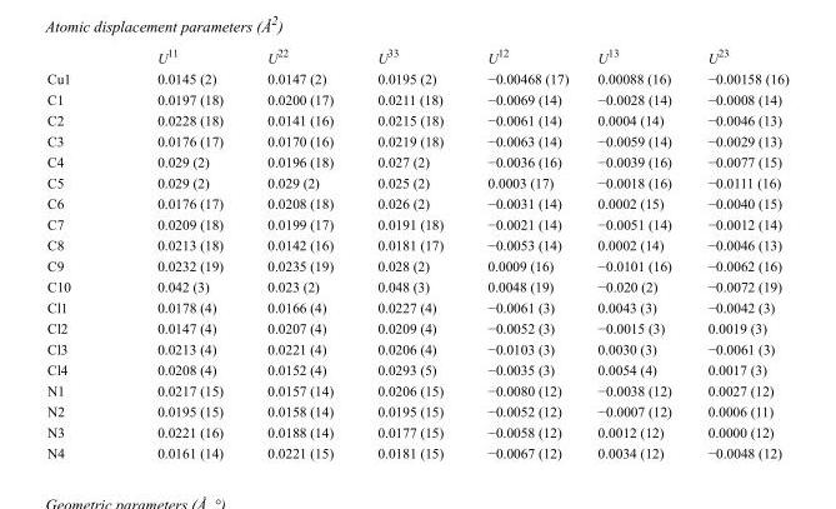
<table><thead><tr><td></td><td>U<sup>11</sup></td><td>U<sup>22</sup></td><td>U<sup>33</sup></td><td>U<sup>12</sup></td><td>U<sup>13</sup></td><td>U<sup>23</sup></td></tr></thead><tbody><tr><td>Cu1</td><td>0.0145 (2)</td><td>0.0147 (2)</td><td>0.0195 (2)</td><td>−0.00468 (17)</td><td>0.00088 (16)</td><td>−0.00158 (16)</td></tr><tr><td>C1</td><td>0.0197 (18)</td><td>0.0200 (17)</td><td>0.0211 (18)</td><td>−0.0069 (14)</td><td>−0.0028 (14)</td><td>−0.0008 (14)</td></tr><tr><td>C2</td><td>0.0228 (18)</td><td>0.0141 (16)</td><td>0.0215 (18)</td><td>−0.0061 (14)</td><td>0.0004 (14)</td><td>−0.0046 (13)</td></tr><tr><td>C3</td><td>0.0176 (17)</td><td>0.0170 (16)</td><td>0.0219 (18)</td><td>−0.0063 (14)</td><td>−0.0059 (14)</td><td>−0.0029 (13)</td></tr><tr><td>C4</td><td>0.029 (2)</td><td>0.0196 (18)</td><td>0.027 (2)</td><td>−0.0036 (16)</td><td>−0.0039 (16)</td><td>−0.0077 (15)</td></tr><tr><td>C5</td><td>0.029 (2)</td><td>0.029 (2)</td><td>0.025 (2)</td><td>0.0003 (17)</td><td>−0.0018 (16)</td><td>−0.0111 (16)</td></tr><tr><td>C6</td><td>0.0176 (17)</td><td>0.0208 (18)</td><td>0.026 (2)</td><td>−0.0031 (14)</td><td>0.0002 (15)</td><td>−0.0040 (15)</td></tr><tr><td>C7</td><td>0.0209 (18)</td><td>0.0199 (17)</td><td>0.0191 (18)</td><td>−0.0021 (14)</td><td>−0.0051 (14)</td><td>−0.0012 (14)</td></tr><tr><td>C8</td><td>0.0213 (18)</td><td>0.0142 (16)</td><td>0.0181 (17)</td><td>−0.0053 (14)</td><td>0.0002 (14)</td><td>−0.0046 (13)</td></tr><tr><td>C9</td><td>0.0232 (19)</td><td>0.0235 (19)</td><td>0.028 (2)</td><td>0.0009 (16)</td><td>−0.0101 (16)</td><td>−0.0062 (16)</td></tr><tr><td>C10</td><td>0.042 (3)</td><td>0.023 (2)</td><td>0.048 (3)</td><td>0.0048 (19)</td><td>−0.020 (2)</td><td>−0.0072 (19)</td></tr><tr><td>Cl1</td><td>0.0178 (4)</td><td>0.0166 (4)</td><td>0.0227 (4)</td><td>−0.0061 (3)</td><td>0.0043 (3)</td><td>−0.0042 (3)</td></tr><tr><td>Cl2</td><td>0.0147 (4)</td><td>0.0207 (4)</td><td>0.0209 (4)</td><td>−0.0052 (3)</td><td>−0.0015 (3)</td><td>0.0019 (3)</td></tr><tr><td>Cl3</td><td>0.0213 (4)</td><td>0.0221 (4)</td><td>0.0206 (4)</td><td>−0.0103 (3)</td><td>0.0030 (3)</td><td>−0.0061 (3)</td></tr><tr><td>Cl4</td><td>0.0208 (4)</td><td>0.0152 (4)</td><td>0.0293 (5)</td><td>−0.0035 (3)</td><td>0.0054 (4)</td><td>0.0017 (3)</td></tr><tr><td>N1</td><td>0.0217 (15)</td><td>0.0157 (14)</td><td>0.0206 (15)</td><td>−0.0080 (12)</td><td>−0.0038 (12)</td><td>0.0027 (12)</td></tr><tr><td>N2</td><td>0.0195 (15)</td><td>0.0158 (14)</td><td>0.0195 (15)</td><td>−0.0052 (12)</td><td>−0.0007 (12)</td><td>0.0006 (11)</td></tr><tr><td>N3</td><td>0.0221 (16)</td><td>0.0188 (14)</td><td>0.0177 (15)</td><td>−0.0058 (12)</td><td>0.0012 (12)</td><td>0.0000 (12)</td></tr><tr><td>N4</td><td>0.0161 (14)</td><td>0.0221 (15)</td><td>0.0181 (15)</td><td>−0.0067 (12)</td><td>0.0034 (12)</td><td>−0.0048 (12)</td></tr></tbody></table>